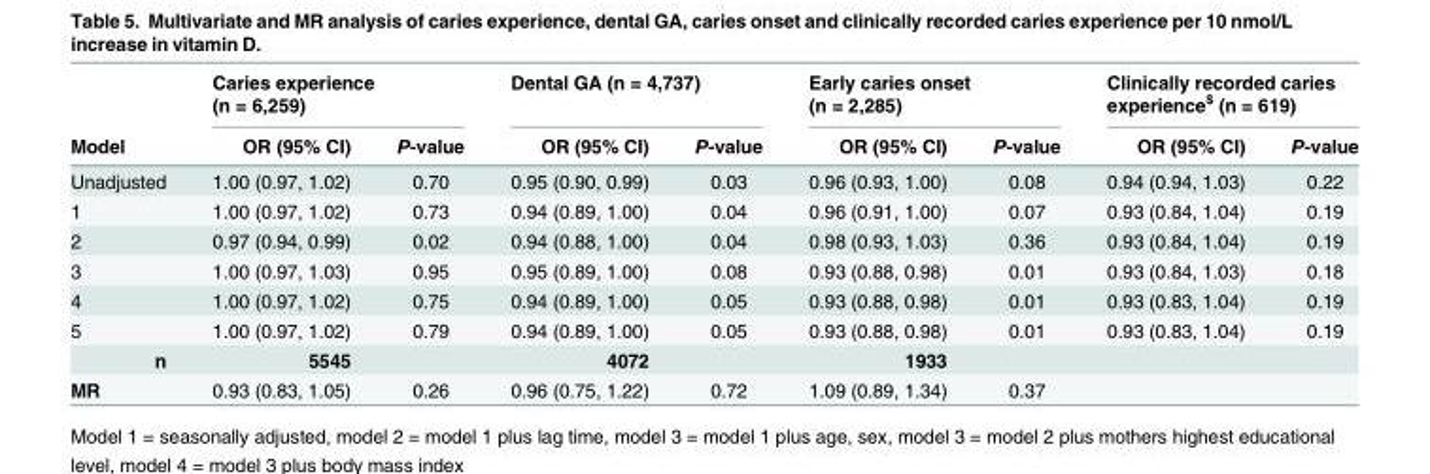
<table><thead><tr><td rowspan="2">Model</td><td colspan="2">Caries experience (n = 6,259)</td><td colspan="2">Dental GA (n = 4,737)</td><td colspan="2">Early caries onset (n = 2,285)</td><td colspan="2">Clinically recorded caries experience<sup>$</sup> (n = 619)</td></tr><tr><td>OR (95% CI)</td><td>P-value</td><td>OR (95% CI)</td><td>P-value</td><td>OR (95% CI)</td><td>P-value</td><td>OR (95% CI)</td><td>P-value</td></tr></thead><tbody><tr><td>Unadjusted</td><td>1.00 (0.97, 1.02)</td><td>0.70</td><td>0.95 (0.90, 0.99)</td><td>0.03</td><td>0.96 (0.93, 1.00)</td><td>0.08</td><td>0.94 (0.94, 1.03)</td><td>0.22</td></tr><tr><td>1</td><td>1.00 (0.97, 1.02)</td><td>0.73</td><td>0.94 (0.89, 1.00)</td><td>0.04</td><td>0.96 (0.91, 1.00)</td><td>0.07</td><td>0.93 (0.84, 1.04)</td><td>0.19</td></tr><tr><td>2</td><td>0.97 (0.94, 0.99)</td><td>0.02</td><td>0.94 (0.88, 1.00)</td><td>0.04</td><td>0.98 (0.93, 1.03)</td><td>0.36</td><td>0.93 (0.84, 1.04)</td><td>0.19</td></tr><tr><td>3</td><td>1.00 (0.97, 1.03)</td><td>0.95</td><td>0.95 (0.89, 1.00)</td><td>0.08</td><td>0.93 (0.88, 0.98)</td><td>0.01</td><td>0.93 (0.84, 1.03)</td><td>0.18</td></tr><tr><td>4</td><td>1.00 (0.97, 1.02)</td><td>0.75</td><td>0.94 (0.89, 1.00)</td><td>0.05</td><td>0.93 (0.88, 0.98)</td><td>0.01</td><td>0.93 (0.83, 1.04)</td><td>0.19</td></tr><tr><td>5</td><td>1.00 (0.97, 1.02)</td><td>0.79</td><td>0.94 (0.89, 1.00)</td><td>0.05</td><td>0.93 (0.88, 0.98)</td><td>0.01</td><td>0.93 (0.83, 1.04)</td><td>0.19</td></tr><tr><td>n</td><td>5545</td><td></td><td>4072</td><td></td><td>1933</td><td></td><td></td><td></td></tr><tr><td>MR</td><td>0.93 (0.83, 1.05)</td><td>0.26</td><td>0.96 (0.75, 1.22)</td><td>0.72</td><td>1.09 (0.89, 1.34)</td><td>0.37</td><td></td><td></td></tr></tbody></table>